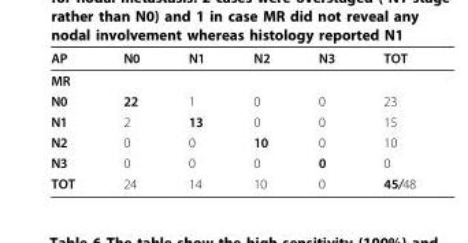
<table><thead><tr><td>AP</td><td>N0</td><td>N1</td><td>N2</td><td>N3</td><td>TOT</td></tr></thead><tbody><tr><td colspan="6">MR</td></tr><tr><td>N0</td><td>22</td><td>1</td><td>0</td><td>0</td><td>23</td></tr><tr><td>N1</td><td>2</td><td>13</td><td>0</td><td>0</td><td>15</td></tr><tr><td>N2</td><td>0</td><td>0</td><td>10</td><td>0</td><td>10</td></tr><tr><td>N3</td><td>0</td><td>0</td><td>0</td><td>0</td><td>0</td></tr><tr><td>TOT</td><td>24</td><td>14</td><td>10</td><td>0</td><td>45/48</td></tr></tbody></table>